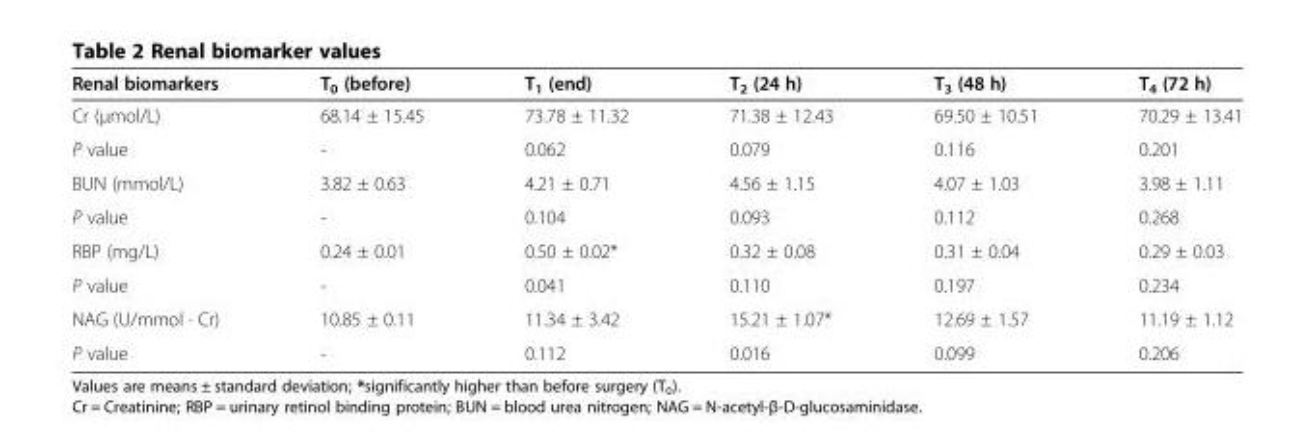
<table><thead><tr><td>Renal biomarkers</td><td>T<sub>0</sub> (before)</td><td>T<sub>1</sub> (end)</td><td>T<sub>2</sub> (24 h)</td><td>T<sub>3</sub> (48 h)</td><td>T<sub>4</sub> (72 h)</td></tr></thead><tbody><tr><td>Cr (μmol/L)</td><td>68.14 ± 15.45</td><td>73.78 ± 11.32</td><td>71.38 ± 12.43</td><td>69.50 ± 10.51</td><td>70.29 ± 13.41</td></tr><tr><td>P value</td><td>-</td><td>0.062</td><td>0.079</td><td>0.116</td><td>0.201</td></tr><tr><td>BUN (mmol/L)</td><td>3.82 ± 0.63</td><td>4.21 ± 0.71</td><td>4.56 ± 1.15</td><td>4.07 ± 1.03</td><td>3.98 ± 1.11</td></tr><tr><td>P value</td><td>-</td><td>0.104</td><td>0.093</td><td>0.112</td><td>0.268</td></tr><tr><td>RBP (mg/L)</td><td>0.24 ± 0.01</td><td>0.50 ± 0.02*</td><td>0.32 ± 0.08</td><td>0.31 ± 0.04</td><td>0.29 ± 0.03</td></tr><tr><td>P value</td><td>-</td><td>0.041</td><td>0.110</td><td>0.197</td><td>0.234</td></tr><tr><td>NAG (U/mmol · Cr)</td><td>10.85 ± 0.11</td><td>11.34 ± 3.42</td><td>15.21 ± 1.07*</td><td>12.69 ± 1.57</td><td>11.19 ± 1.12</td></tr><tr><td>P value</td><td>-</td><td>0.112</td><td>0.016</td><td>0.099</td><td>0.206</td></tr></tbody></table>